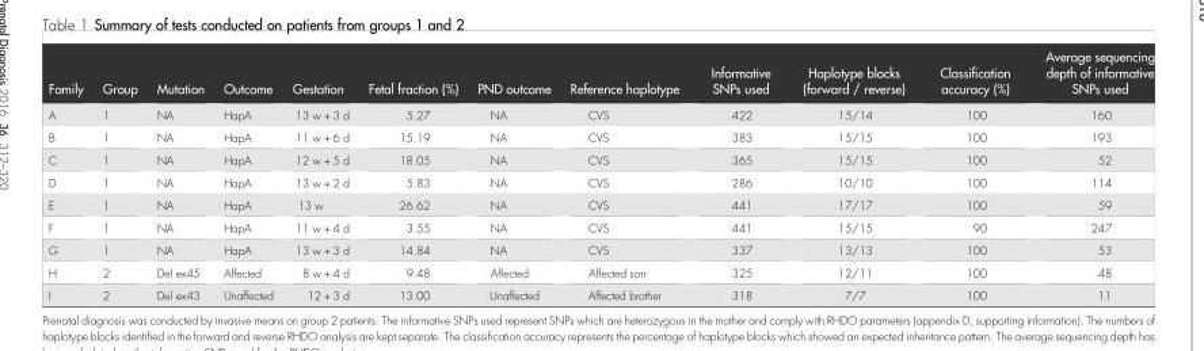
<table><thead><tr><td>Family</td><td>Group</td><td>Mutation</td><td>Outcome</td><td>Gestation</td><td>Fetal fraction (%)</td><td>PND outcome</td><td>Reference haplotype</td><td>Informative SNPs used</td><td>Haplotype blocks (forward / reverse)</td><td>Classification accuracy (%)</td><td>Average sequencing depth of informative SNPs used</td></tr></thead><tbody><tr><td>A</td><td>1</td><td>NA</td><td>HapA</td><td>13 w + 3 d</td><td>5.27</td><td>NA</td><td>CVS</td><td>422</td><td>15/14</td><td>100</td><td>160</td></tr><tr><td>B</td><td>1</td><td>NA</td><td>HapA</td><td>11 w + 6 d</td><td>15.19</td><td>NA</td><td>CVS</td><td>383</td><td>15/15</td><td>100</td><td>193</td></tr><tr><td>C</td><td>1</td><td>NA</td><td>HapA</td><td>12 w + 5 d</td><td>18.05</td><td>NA</td><td>CVS</td><td>365</td><td>15/15</td><td>100</td><td>52</td></tr><tr><td>D</td><td>1</td><td>NA</td><td>HapA</td><td>13 w + 2 d</td><td>5.83</td><td>NA</td><td>CVS</td><td>286</td><td>10/10</td><td>100</td><td>114</td></tr><tr><td>E</td><td>1</td><td>NA</td><td>HapA</td><td>13 w</td><td>26.62</td><td>NA</td><td>CVS</td><td>441</td><td>17/17</td><td>100</td><td>59</td></tr><tr><td>F</td><td>1</td><td>NA</td><td>HapA</td><td>11 w + 4 d</td><td>3.55</td><td>NA</td><td>CVS</td><td>441</td><td>15/15</td><td>90</td><td>247</td></tr><tr><td>G</td><td>1</td><td>NA</td><td>HapA</td><td>13 w + 3 d</td><td>14.84</td><td>NA</td><td>CVS</td><td>337</td><td>13/13</td><td>100</td><td>53</td></tr><tr><td>H</td><td>2</td><td>Del ex45</td><td>Affected</td><td>8 w + 4 d</td><td>9.48</td><td>Affected</td><td>Affected son</td><td>325</td><td>12/11</td><td>100</td><td>48</td></tr><tr><td>I</td><td>2</td><td>Del ex43</td><td>Unaffected</td><td>12 + 3 d</td><td>13.00</td><td>Unaffected</td><td>Affected brother</td><td>318</td><td>7/7</td><td>100</td><td>11</td></tr></tbody></table>